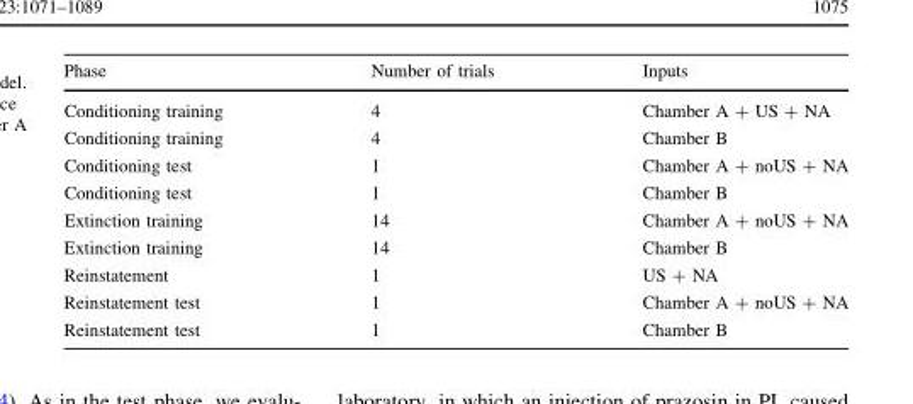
<table><thead><tr><td>Phase</td><td>Number of trials</td><td>Inputs</td></tr></thead><tbody><tr><td>Conditioning training</td><td>4</td><td>Chamber A + US + NA</td></tr><tr><td>Conditioning training</td><td>4</td><td>Chamber B</td></tr><tr><td>Conditioning test</td><td>1</td><td>Chamber A + noUS + NA</td></tr><tr><td>Conditioning test</td><td>1</td><td>Chamber B</td></tr><tr><td>Extinction training</td><td>14</td><td>Chamber A + noUS + NA</td></tr><tr><td>Extinction training</td><td>14</td><td>Chamber B</td></tr><tr><td>Reinstatement</td><td>1</td><td>US + NA</td></tr><tr><td>Reinstatement test</td><td>1</td><td>Chamber A + noUS + NA</td></tr><tr><td>Reinstatement test</td><td>1</td><td>Chamber B</td></tr></tbody></table>